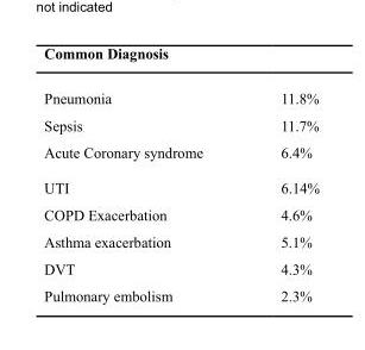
<table><thead><tr><td colspan="2">Common Diagnosis</td></tr><tr><td>Pneumonia</td><td>11.8%</td></tr></thead><tbody><tr><td>Sepsis</td><td>11.7%</td></tr><tr><td>Acute Coronary syndrome</td><td>6.4%</td></tr><tr><td>UTI</td><td>6.14%</td></tr><tr><td>COPD Exacerbation</td><td>4.6%</td></tr><tr><td>Asthma exacerbation</td><td>5.1%</td></tr><tr><td>DVT</td><td>4.3%</td></tr><tr><td>Pulmonary embolism</td><td>2.3%</td></tr></tbody></table>